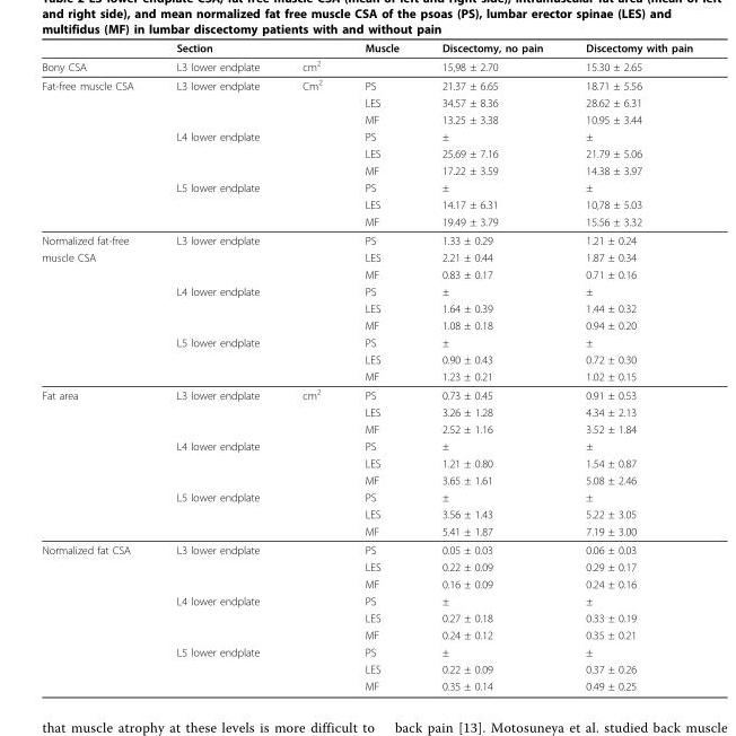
<table><thead><tr><td></td><td>Section</td><td></td><td>Muscle</td><td>Discectomy, no pain</td><td>Discectomy with pain</td></tr></thead><tbody><tr><td>Bony CSA</td><td>L3 lower endplate</td><td>cm<sup>2</sup></td><td></td><td>15,98 ± 2.70</td><td>15.30 ± 2.65</td></tr><tr><td rowspan="9">Fat-free muscle CSA</td><td>L3 lower endplate</td><td>Cm<sup>2</sup></td><td>PS</td><td>21.37 ± 6.65</td><td>18.71 ± 5.56</td></tr><tr><td></td><td></td><td>LES</td><td>34.57 ± 8.36</td><td>28.62 ± 6.31</td></tr><tr><td></td><td></td><td>MF</td><td>13.25 ± 3.38</td><td>10.95 ± 3.44</td></tr><tr><td>L4 lower endplate</td><td></td><td>PS</td><td>±</td><td>±</td></tr><tr><td></td><td></td><td>LES</td><td>25.69 ± 7.16</td><td>21.79 ± 5.06</td></tr><tr><td></td><td></td><td>MF</td><td>17.22 ± 3.59</td><td>14.38 ± 3.97</td></tr><tr><td>L5 lower endplate</td><td></td><td>PS</td><td>±</td><td>±</td></tr><tr><td></td><td></td><td>LES</td><td>14.17 ± 6.31</td><td>10,78 ± 5.03</td></tr><tr><td></td><td></td><td>MF</td><td>19.49 ± 3.79</td><td>15.56 ± 3.32</td></tr><tr><td>Normalized fat-free</td><td>L3 lower endplate</td><td></td><td>PS</td><td>1.33 ± 0.29</td><td>1.21 ± 0.24</td></tr><tr><td rowspan="8">muscle CSA</td><td></td><td></td><td>LES</td><td>2.21 ± 0.44</td><td>1.87 ± 0.34</td></tr><tr><td></td><td></td><td>MF</td><td>0.83 ± 0.17</td><td>0.71 ± 0.16</td></tr><tr><td>L4 lower endplate</td><td></td><td>PS</td><td>±</td><td>±</td></tr><tr><td></td><td></td><td>LES</td><td>1.64 ± 0.39</td><td>1.44 ± 0.32</td></tr><tr><td></td><td></td><td>MF</td><td>1.08 ± 0.18</td><td>0.94 ± 0.20</td></tr><tr><td>L5 lower endplate</td><td></td><td>PS</td><td>±</td><td>±</td></tr><tr><td></td><td></td><td>LES</td><td>0.90 ± 0.43</td><td>0.72 ± 0.30</td></tr><tr><td></td><td></td><td>MF</td><td>1.23 ± 0.21</td><td>1.02 ± 0.15</td></tr><tr><td rowspan="9">Fat area</td><td>L3 lower endplate</td><td>cm<sup>2</sup></td><td>PS</td><td>0.73 ± 0.45</td><td>0.91 ± 0.53</td></tr><tr><td></td><td></td><td>LES</td><td>3.26 ± 1.28</td><td>4.34 ± 2.13</td></tr><tr><td></td><td></td><td>MF</td><td>2.52 ± 1.16</td><td>3.52 ± 1.84</td></tr><tr><td>L4 lower endplate</td><td></td><td>PS</td><td>±</td><td>±</td></tr><tr><td></td><td></td><td>LES</td><td>1.21 ± 0.80</td><td>1.54 ± 0.87</td></tr><tr><td></td><td></td><td>MF</td><td>3.65 ± 1.61</td><td>5.08 ± 2.46</td></tr><tr><td>L5 lower endplate</td><td></td><td>PS</td><td>±</td><td>±</td></tr><tr><td></td><td></td><td>LES</td><td>3.56 ± 1.43</td><td>5.22 ± 3.05</td></tr><tr><td></td><td></td><td>MF</td><td>5.41 ± 1.87</td><td>7.19 ± 3.00</td></tr><tr><td rowspan="9">Normalized fat CSA</td><td>L3 lower endplate</td><td></td><td>PS</td><td>0.05 ± 0.03</td><td>0.06 ± 0.03</td></tr><tr><td></td><td></td><td>LES</td><td>0.22 ± 0.09</td><td>0.29 ± 0.17</td></tr><tr><td></td><td></td><td>MF</td><td>0.16 ± 0.09</td><td>0.24 ± 0.16</td></tr><tr><td>L4 lower endplate</td><td></td><td>PS</td><td>±</td><td>±</td></tr><tr><td></td><td></td><td>LES</td><td>0.27 ± 0.18</td><td>0.33 ± 0.19</td></tr><tr><td></td><td></td><td>MF</td><td>0.24 ± 0.12</td><td>0.35 ± 0.21</td></tr><tr><td>L5 lower endplate</td><td></td><td>PS</td><td>±</td><td>±</td></tr><tr><td></td><td></td><td>LES</td><td>0.22 ± 0.09</td><td>0.37 ± 0.26</td></tr><tr><td></td><td></td><td>MF</td><td>0.35 ± 0.14</td><td>0.49 ± 0.25</td></tr></tbody></table>